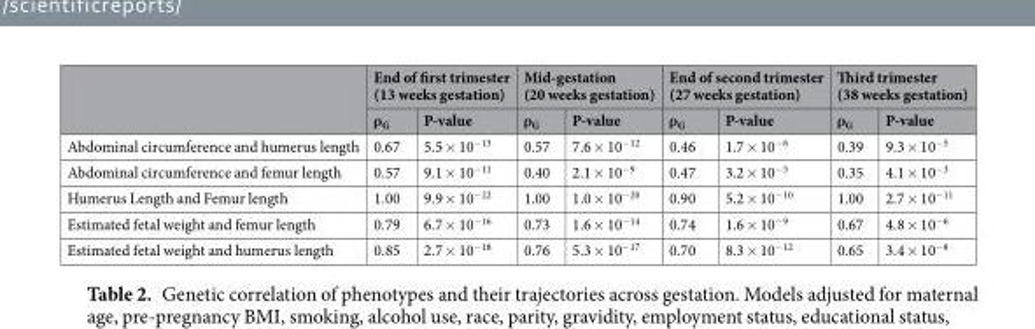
<table><thead><tr><td rowspan="2"></td><td colspan="2">End of first trimester (13 weeks gestation)</td><td colspan="2">Mid-gestation (20 weeks gestation)</td><td colspan="2">End of second trimester (27 weeks gestation)</td><td colspan="2">Third trimester (38 weeks gestation)</td></tr><tr><td>ρ<sub>G</sub></td><td>P-value</td><td>ρ<sub>G</sub></td><td>P-value</td><td>ρ<sub>G</sub></td><td>P-value</td><td>ρ<sub>G</sub></td><td>P-value</td></tr></thead><tbody><tr><td>Abdominal circumference and humerus length</td><td>0.67</td><td>5.5 × 10<sup>−13</sup></td><td>0.57</td><td>7.6 × 10<sup>−12</sup></td><td>0.46</td><td>1.7 × 10<sup>−6</sup></td><td>0.39</td><td>9.3 × 10<sup>−5</sup></td></tr><tr><td>Abdominal circumference and femur length</td><td>0.57</td><td>9.1 × 10<sup>−11</sup></td><td>0.40</td><td>2.1 × 10<sup>−9</sup></td><td>0.47</td><td>3.2 × 10<sup>−5</sup></td><td>0.35</td><td>4.1 × 10<sup>−3</sup></td></tr><tr><td>Humerus Length and Femur length</td><td>1.00</td><td>9.9 × 10<sup>−22</sup></td><td>1.00</td><td>1.0 × 10<sup>−20</sup></td><td>0.90</td><td>5.2 × 10<sup>−10</sup></td><td>1.00</td><td>2.7 × 10<sup>−11</sup></td></tr><tr><td>Estimated fetal weight and femur length</td><td>0.79</td><td>6.7 × 10<sup>−16</sup></td><td>0.73</td><td>1.6 × 10<sup>−14</sup></td><td>0.74</td><td>1.6 × 10<sup>−9</sup></td><td>0.67</td><td>4.8 × 10<sup>−6</sup></td></tr><tr><td>Estimated fetal weight and humerus length</td><td>0.85</td><td>2.7 × 10<sup>−18</sup></td><td>0.76</td><td>5.3 × 10<sup>−17</sup></td><td>0.70</td><td>8.3 × 10<sup>−12</sup></td><td>0.65</td><td>3.4 × 10<sup>−8</sup></td></tr></tbody></table>